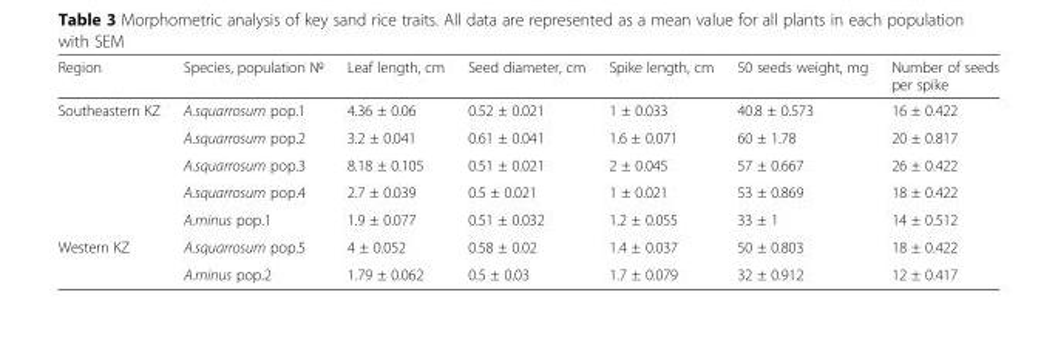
<table><thead><tr><td>Region</td><td>Species, population №</td><td>Leaf length, cm</td><td>Seed diameter, cm</td><td>Spike length, cm</td><td>50 seeds weight, mg</td><td>Number of seeds per spike</td></tr></thead><tbody><tr><td rowspan="5">Southeastern KZ</td><td>A.squarrosum pop.1</td><td>4.36 ± 0.06</td><td>0.52 ± 0.021</td><td>1 ± 0.033</td><td>40.8 ± 0.573</td><td>16 ± 0.422</td></tr><tr><td>A.squarrosum pop.2</td><td>3.2 ± 0.041</td><td>0.61 ± 0.041</td><td>1.6 ± 0.071</td><td>60 ± 1.78</td><td>20 ± 0.817</td></tr><tr><td>A.squarrosum pop.3</td><td>8.18 ± 0.105</td><td>0.51 ± 0.021</td><td>2 ± 0.045</td><td>57 ± 0.667</td><td>26 ± 0.422</td></tr><tr><td>A.squarrosum pop.4</td><td>2.7 ± 0.039</td><td>0.5 ± 0.021</td><td>1 ± 0.021</td><td>53 ± 0.869</td><td>18 ± 0.422</td></tr><tr><td>A.minus pop.1</td><td>1.9 ± 0.077</td><td>0.51 ± 0.032</td><td>1.2 ± 0.055</td><td>33 ± 1</td><td>14 ± 0.512</td></tr><tr><td rowspan="2">Western KZ</td><td>A.squarrosum pop.5</td><td>4 ± 0.052</td><td>0.58 ± 0.02</td><td>1.4 ± 0.037</td><td>50 ± 0.803</td><td>18 ± 0.422</td></tr><tr><td>A.minus pop.2</td><td>1.79 ± 0.062</td><td>0.5 ± 0.03</td><td>1.7 ± 0.079</td><td>32 ± 0.912</td><td>12 ± 0.417</td></tr></tbody></table>